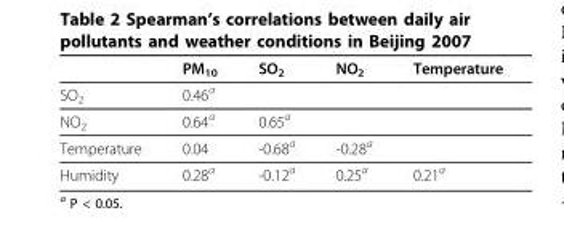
<table><thead><tr><td></td><td>PM<sub>10</sub></td><td>SO<sub>2</sub></td><td>NO<sub>2</sub></td><td>Temperature</td></tr></thead><tbody><tr><td>SO<sub>2</sub></td><td>0.46<sup>a</sup></td><td></td><td></td><td></td></tr><tr><td>NO<sub>2</sub></td><td>0.64<sup>a</sup></td><td>0.65<sup>a</sup></td><td></td><td></td></tr><tr><td>Temperature</td><td>0.04</td><td>-0.68<sup>a</sup></td><td>-0.28<sup>a</sup></td><td></td></tr><tr><td>Humidity</td><td>0.28<sup>a</sup></td><td>-0.12<sup>a</sup></td><td>0.25<sup>a</sup></td><td>0.21<sup>a</sup></td></tr></tbody></table>